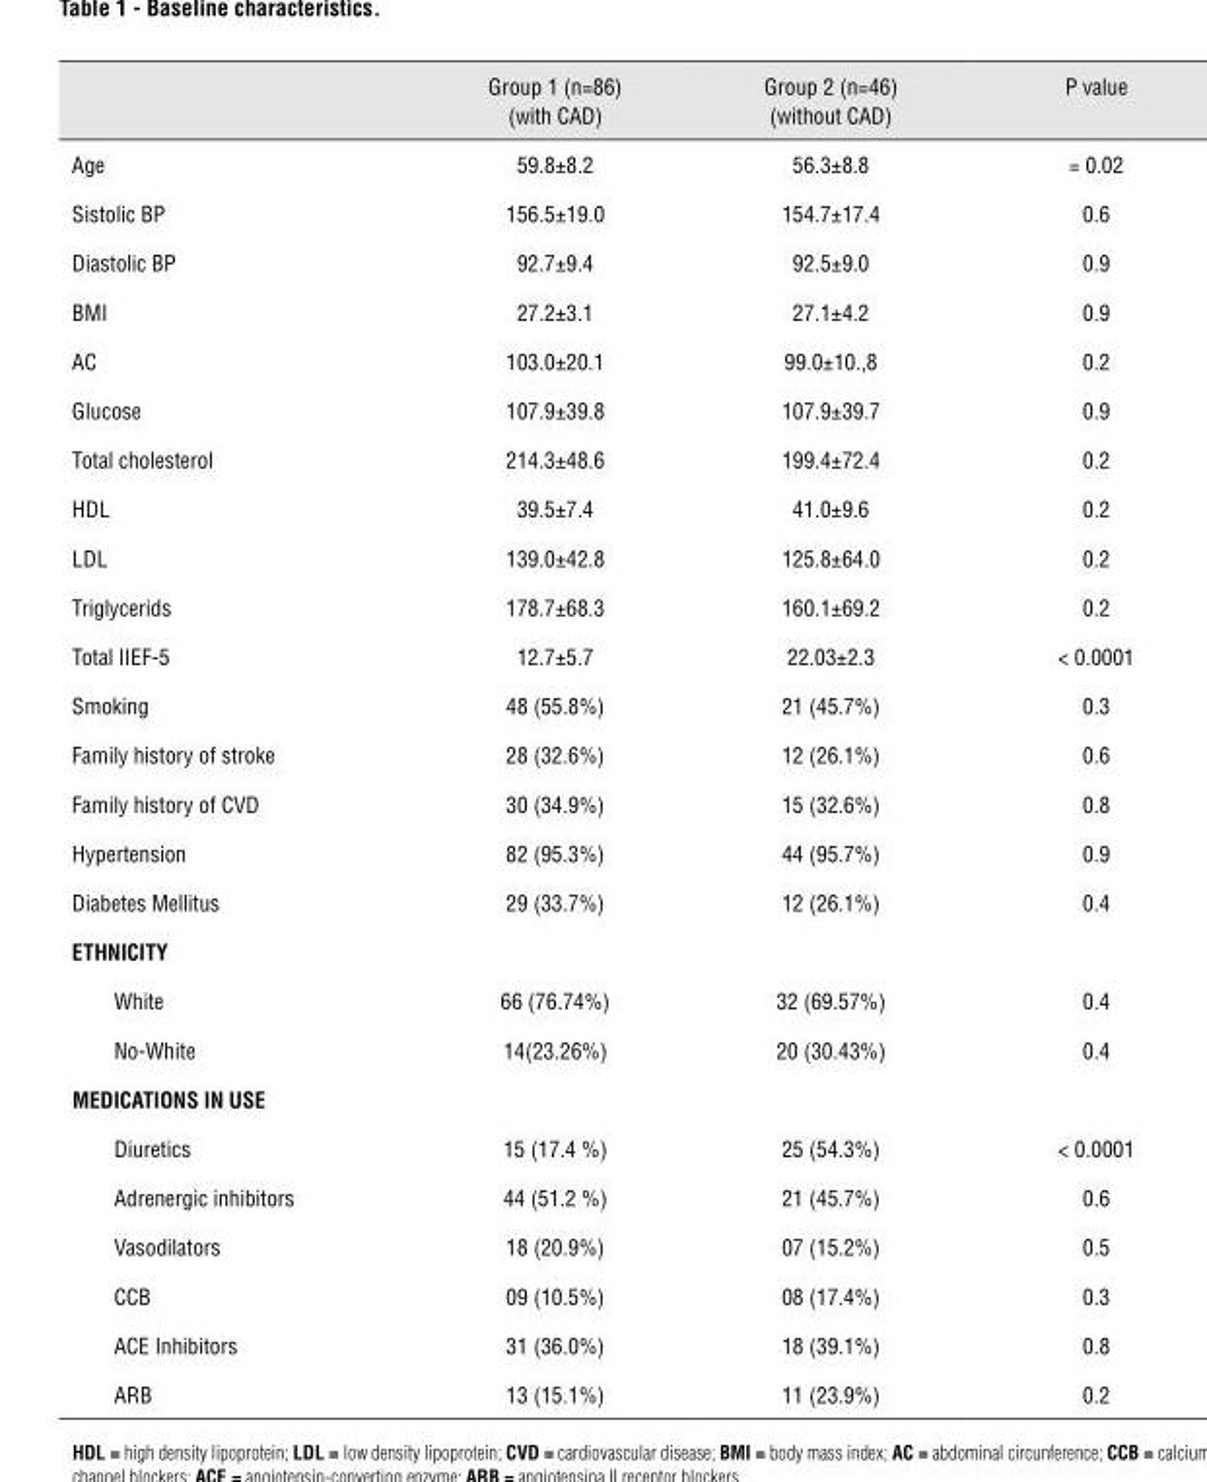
<table><thead><tr><td></td><td>Group 1 (n=86) (with CAD)</td><td>Group 2 (n=46) (without CAD)</td><td>P value</td></tr></thead><tbody><tr><td>Age</td><td>59.8±8.2</td><td>56.3±8.8</td><td>= 0.02</td></tr><tr><td>Sistolic BP</td><td>156.5±19.0</td><td>154.7±17.4</td><td>0.6</td></tr><tr><td>Diastolic BP</td><td>92.7±9.4</td><td>92.5±9.0</td><td>0.9</td></tr><tr><td>BMI</td><td>27.2±3.1</td><td>27.1±4.2</td><td>0.9</td></tr><tr><td>AC</td><td>103.0±20.1</td><td>99.0±10.,8</td><td>0.2</td></tr><tr><td>Glucose</td><td>107.9±39.8</td><td>107.9±39.7</td><td>0.9</td></tr><tr><td>Total cholesterol</td><td>214.3±48.6</td><td>199.4±72.4</td><td>0.2</td></tr><tr><td>HDL</td><td>39.5±7.4</td><td>41.0±9.6</td><td>0.2</td></tr><tr><td>LDL</td><td>139.0±42.8</td><td>125.8±64.0</td><td>0.2</td></tr><tr><td>Triglycerids</td><td>178.7±68.3</td><td>160.1±69.2</td><td>0.2</td></tr><tr><td>Total IIEF-5</td><td>12.7±5.7</td><td>22.03±2.3</td><td>&lt; 0.0001</td></tr><tr><td>Smoking</td><td>48 (55.8%)</td><td>21 (45.7%)</td><td>0.3</td></tr><tr><td>Family history of stroke</td><td>28 (32.6%)</td><td>12 (26.1%)</td><td>0.6</td></tr><tr><td>Family history of CVD</td><td>30 (34.9%)</td><td>15 (32.6%)</td><td>0.8</td></tr><tr><td>Hypertension</td><td>82 (95.3%)</td><td>44 (95.7%)</td><td>0.9</td></tr><tr><td>Diabetes Mellitus</td><td>29 (33.7%)</td><td>12 (26.1%)</td><td>0.4</td></tr><tr><td colspan="4">ETHNICITy</td></tr><tr><td>White</td><td>66 (76.74%)</td><td>32 (69.57%)</td><td>0.4</td></tr><tr><td>No-White</td><td>14(23.26%)</td><td>20 (30.43%)</td><td>0.4</td></tr><tr><td colspan="4">MEDICaTIONs IN usE</td></tr><tr><td>Diuretics</td><td>15 (17.4 %)</td><td>25 (54.3%)</td><td>&lt; 0.0001</td></tr><tr><td>Adrenergic inhibitors</td><td>44 (51.2 %)</td><td>21 (45.7%)</td><td>0.6</td></tr><tr><td>Vasodilators</td><td>18 (20.9%)</td><td>07 (15.2%)</td><td>0.5</td></tr><tr><td>CCB</td><td>09 (10.5%)</td><td>08 (17.4%)</td><td>0.3</td></tr><tr><td>ACE Inhibitors</td><td>31 (36.0%)</td><td>18 (39.1%)</td><td>0.8</td></tr><tr><td>ARB</td><td>13 (15.1%)</td><td>11 (23.9%)</td><td>0.2</td></tr></tbody></table>